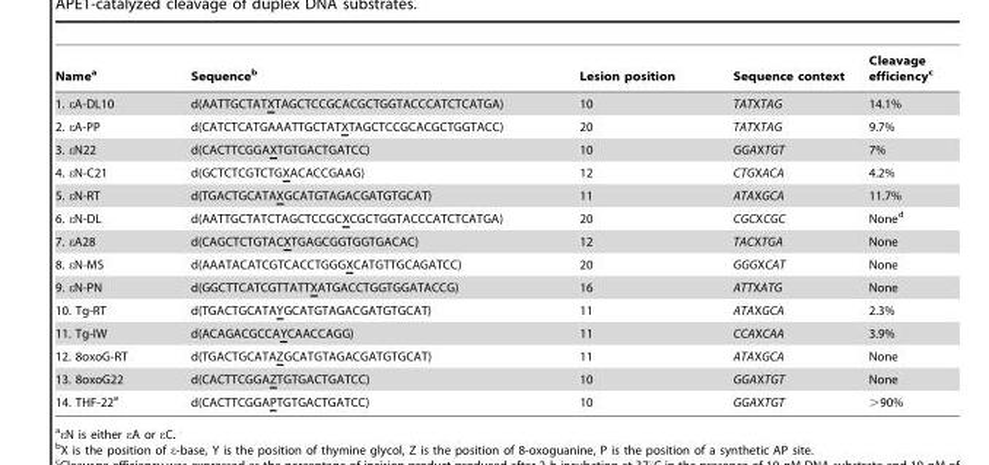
<table><thead><tr><td>Name<sup>a</sup></td><td>Sequence<sup>b</sup></td><td>Lesion position</td><td>Sequence context</td><td>Cleavage efficiency<sup>c</sup></td></tr></thead><tbody><tr><td>1. εA-DL10</td><td>d(AATTGCTATXTAGCTCCGCACGCTGGTACCCATCTCATGA)</td><td>10</td><td>TATXTAG</td><td>14.1%</td></tr><tr><td>2. εA-PP</td><td>d(CATCTCATGAAATTGCTATXTAGCTCCGCACGCTGGTACC)</td><td>20</td><td>TATXTAG</td><td>9.7%</td></tr><tr><td>3. εN22</td><td>d(CACTTCGGAXTGTGACTGATCC)</td><td>10</td><td>GGAXTGT</td><td>7%</td></tr><tr><td>4. εN-C21</td><td>d(GCTCTCGTCTGXACACCGAAG)</td><td>12</td><td>CTGXACA</td><td>4.2%</td></tr><tr><td>5. εN-RT</td><td>d(TGACTGCATAXGCATGTAGACGATGTGCAT)</td><td>11</td><td>ATAXGCA</td><td>11.7%</td></tr><tr><td>6. εN-DL</td><td>d(AATTGCTATCTAGCTCCGCXCGCTGGTACCCATCTCATGA)</td><td>20</td><td>CGCXCGC</td><td>None<sup>d</sup></td></tr><tr><td>7. εA28</td><td>d(CAGCTCTGTACXTGAGCGGTGGTGACAC)</td><td>12</td><td>TACXTGA</td><td>None</td></tr><tr><td>8. εN-MS</td><td>d(AAATACATCGTCACCTGGGXCATGTTGCAGATCC)</td><td>20</td><td>GGGXCAT</td><td>None</td></tr><tr><td>9. εN-PN</td><td>d(GGCTTCATCGTTATTXATGACCTGGTGGATACCG)</td><td>16</td><td>ATTXATG</td><td>None</td></tr><tr><td>10. Tg-RT</td><td>d(TGACTGCATAYGCATGTAGACGATGTGCAT)</td><td>11</td><td>ATAXGCA</td><td>2.3%</td></tr><tr><td>11. Tg-IW</td><td>d(ACAGACGCCAYCAACCAGG)</td><td>11</td><td>CCAXCAA</td><td>3.9%</td></tr><tr><td>12. 8oxoG-RT</td><td>d(TGACTGCATAZGCATGTAGACGATGTGCAT)</td><td>11</td><td>ATAXGCA</td><td>None</td></tr><tr><td>13. 8oxoG22</td><td>d(CACTTCGGAZTGTGACTGATCC)</td><td>10</td><td>GGAXTGT</td><td>None</td></tr><tr><td>14. THF-22<sup>e</sup></td><td>d(CACTTCGGAPTGTGACTGATCC)</td><td>10</td><td>GGAXTGT</td><td>&gt;90%</td></tr></tbody></table>